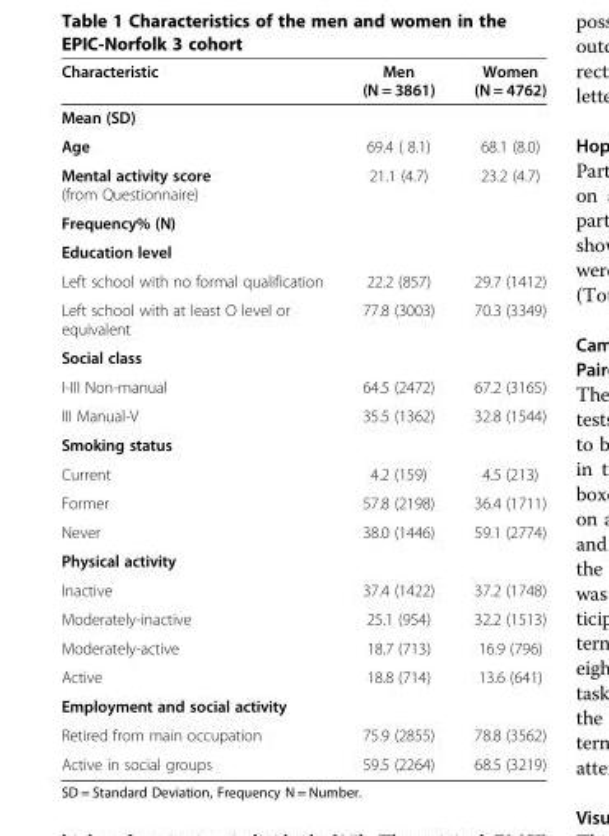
<table><thead><tr><td>Characteristic</td><td>Men (N = 3861)</td><td>Women (N = 4762)</td></tr></thead><tbody><tr><td colspan="3">Mean (SD)</td></tr><tr><td>Age</td><td>69.4 ( 8.1)</td><td>68.1 (8.0)</td></tr><tr><td>Mental activity score (from Questionnaire)</td><td>21.1 (4.7)</td><td>23.2 (4.7)</td></tr><tr><td colspan="3">Frequency% (N)</td></tr><tr><td colspan="3">Education level</td></tr><tr><td>Left school with no formal qualification</td><td>22.2 (857)</td><td>29.7 (1412)</td></tr><tr><td>Left school with at least O level or equivalent</td><td>77.8 (3003)</td><td>70.3 (3349)</td></tr><tr><td colspan="3">Social class</td></tr><tr><td>I-III Non-manual</td><td>64.5 (2472)</td><td>67.2 (3165)</td></tr><tr><td>III Manual-V</td><td>35.5 (1362)</td><td>32.8 (1544)</td></tr><tr><td colspan="3">Smoking status</td></tr><tr><td>Current</td><td>4.2 (159)</td><td>4.5 (213)</td></tr><tr><td>Former</td><td>57.8 (2198)</td><td>36.4 (1711)</td></tr><tr><td>Never</td><td>38.0 (1446)</td><td>59.1 (2774)</td></tr><tr><td colspan="3">Physical activity</td></tr><tr><td>Inactive</td><td>37.4 (1422)</td><td>37.2 (1748)</td></tr><tr><td>Moderately-inactive</td><td>25.1 (954)</td><td>32.2 (1513)</td></tr><tr><td>Moderately-active</td><td>18.7 (713)</td><td>16.9 (796)</td></tr><tr><td>Active</td><td>18.8 (714)</td><td>13.6 (641)</td></tr><tr><td colspan="3">Employment and social activity</td></tr><tr><td>Retired from main occupation</td><td>75.9 (2855)</td><td>78.8 (3562)</td></tr><tr><td>Active in social groups</td><td>59.5 (2264)</td><td>68.5 (3219)</td></tr></tbody></table>